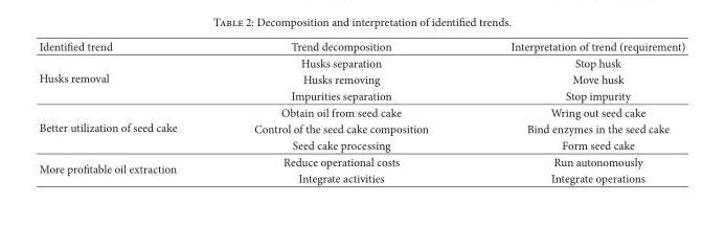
<table><thead><tr><td>Identified trend</td><td>Trend decomposition</td><td>Interpretation of trend (requirement)</td></tr></thead><tbody><tr><td rowspan="3">Husks removal</td><td>Husks separation</td><td>Stop husk</td></tr><tr><td>Husks removing</td><td>Move husk</td></tr><tr><td>Impurities separation</td><td>Stop impurity</td></tr><tr><td rowspan="3">Better utilization of seed cake</td><td>Obtain oil from seed cake</td><td>Wring out seed cake</td></tr><tr><td>Control of the seed cake composition</td><td>Bind enzymes in the seed cake</td></tr><tr><td>Seed cake processing</td><td>Form seed cake</td></tr><tr><td rowspan="2">More profitable oil extraction</td><td>Reduce operational costs</td><td>Run autonomously</td></tr><tr><td>Integrate activities</td><td>Integrate operations</td></tr></tbody></table>